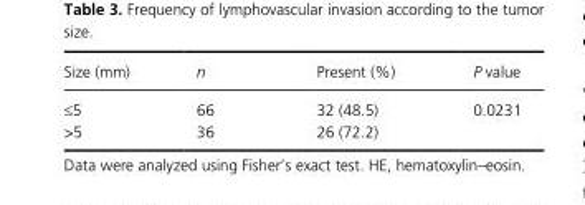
<table><thead><tr><td>Size (mm)</td><td>n</td><td>Present (%)</td><td>P value</td></tr></thead><tbody><tr><td>≤5</td><td>66</td><td>32 (48.5)</td><td>0.0231</td></tr><tr><td>&gt;5</td><td>36</td><td>26 (72.2)</td><td></td></tr></tbody></table>